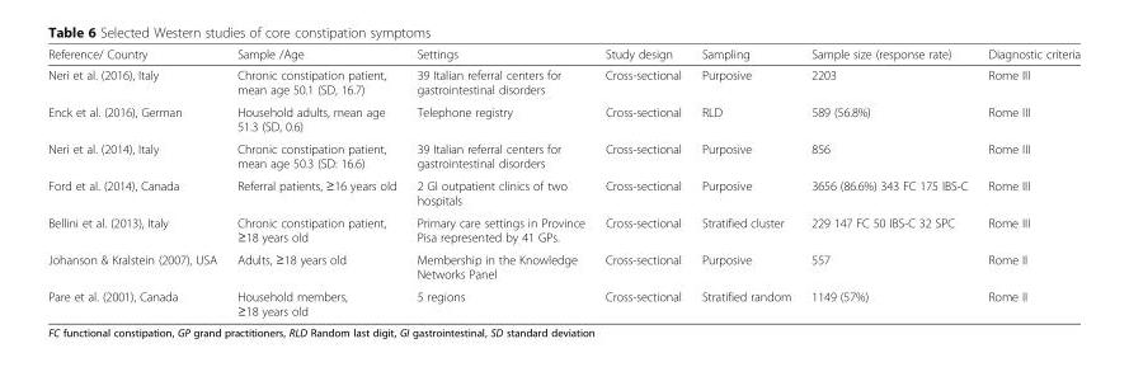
<table><thead><tr><td>Reference/ Country</td><td>Sample /Age</td><td>Settings</td><td>Study design</td><td>Sampling</td><td>Sample size (response rate)</td><td>Diagnostic criteria</td></tr></thead><tbody><tr><td>Neri et al. (2016), Italy</td><td>Chronic constipation patient, mean age 50.1 (SD, 16.7)</td><td>39 Italian referral centers for gastrointestinal disorders</td><td>Cross-sectional</td><td>Purposive</td><td>2203</td><td>Rome III</td></tr><tr><td>Enck et al. (2016), German</td><td>Household adults, mean age 51.3 (SD, 0.6)</td><td>Telephone registry</td><td>Cross-sectional</td><td>RLD</td><td>589 (56.8%)</td><td>Rome III</td></tr><tr><td>Neri et al. (2014), Italy</td><td>Chronic constipation patient, mean age 50.3 (SD: 16.6)</td><td>39 Italian referral centers for gastrointestinal disorders</td><td>Cross-sectional</td><td>Purposive</td><td>856</td><td>Rome III</td></tr><tr><td>Ford et al. (2014), Canada</td><td>Referral patients, ≥16 years old</td><td>2 GI outpatient clinics of two hospitals</td><td>Cross-sectional</td><td>Purposive</td><td>3656 (86.6%) 343 FC 175 IBS-C</td><td>Rome III</td></tr><tr><td>Bellini et al. (2013), Italy</td><td>Chronic constipation patient, ≥18 years old</td><td>Primary care settings in Province Pisa represented by 41 GPs.</td><td>Cross-sectional</td><td>Stratified cluster</td><td>229 147 FC 50 IBS-C 32 SPC</td><td>Rome III</td></tr><tr><td>Johanson &amp; Kralstein (2007), USA</td><td>Adults, ≥18 years old</td><td>Membership in the Knowledge Networks Panel</td><td>Cross-sectional</td><td>Purposive</td><td>557</td><td>Rome II</td></tr><tr><td>Pare et al. (2001), Canada</td><td>Household members, ≥18 years old</td><td>5 regions</td><td>Cross-sectional</td><td>Stratified random</td><td>1149 (57%)</td><td>Rome II</td></tr></tbody></table>